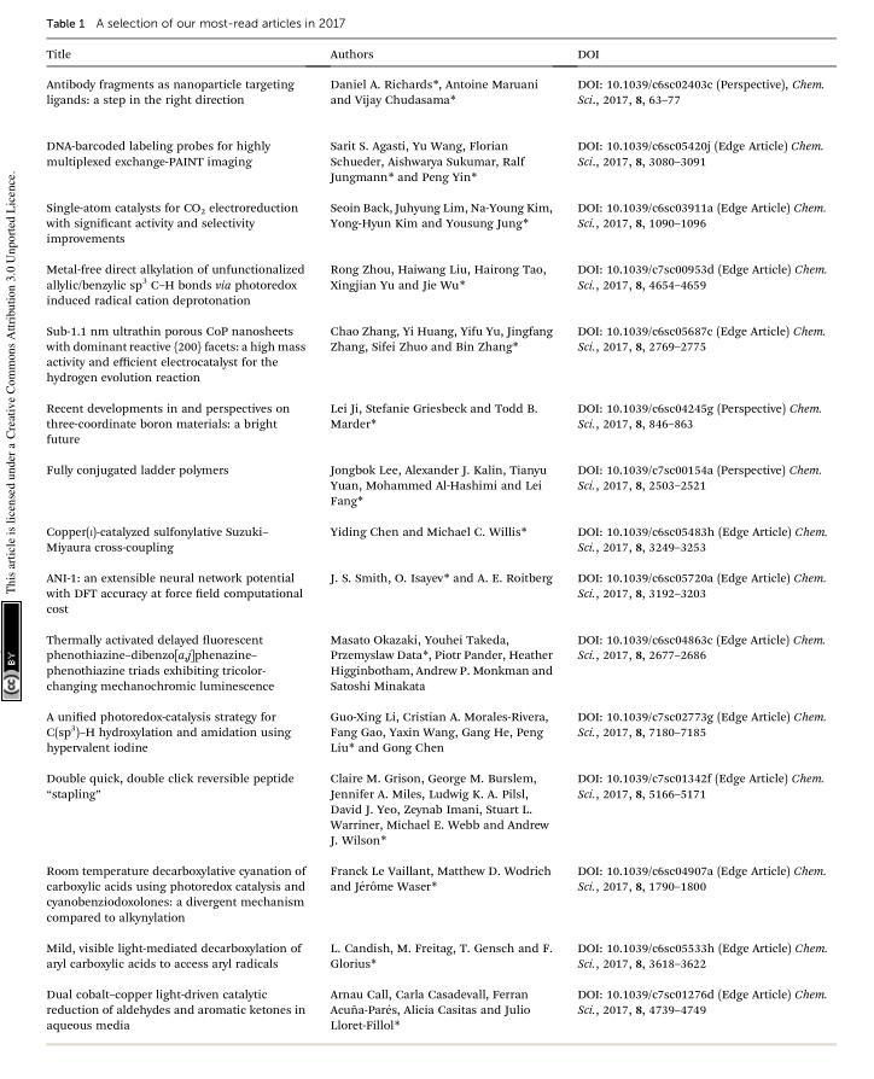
<table><thead><tr><td>Title</td><td>Authors</td><td>DOI</td></tr></thead><tbody><tr><td>Antibody fragments as nanoparticle targeting ligands: a step in the right direction</td><td>Daniel A. Richards*, Antoine Maruani and Vijay Chudasama*</td><td>DOI: 10.1039/c6sc02403c (Perspective), Chem. Sci., 2017, 8, 63–77</td></tr><tr><td>DNA-barcoded labeling probes for highly multiplexed exchange-PAINT imaging</td><td>Sarit S. Agasti, Yu Wang, Florian Schueder, Aishwarya Sukumar, Ralf Jungmann* and Peng Yin*</td><td>DOI: 10.1039/c6sc05420j (Edge Article) Chem. Sci., 2017, 8, 3080–3091</td></tr><tr><td>Single-atom catalysts for CO2 electroreduction with signicant activity and selectivity improvements</td><td>Seoin Back, Juhyung Lim, Na-Young Kim, Yong-Hyun Kim and Yousung Jung*</td><td>DOI: 10.1039/c6sc03911a (Edge Article) Chem. Sci., 2017, 8, 1090–1096</td></tr><tr><td>Metal-free direct alkylation of unfunctionalized allylic/benzylic sp<sup>3</sup> C–H bonds via photoredox induced radical cation deprotonation</td><td>Rong Zhou, Haiwang Liu, Hairong Tao, Xingjian Yu and Jie Wu*</td><td>DOI: 10.1039/c7sc00953d (Edge Article) Chem. Sci., 2017, 8, 4654–4659</td></tr><tr><td>Sub-1.1 nm ultrathin porous CoP nanosheets with dominant reactive {200} facets: a high mass activity and efficient electrocatalyst for the hydrogen evolution reaction</td><td>Chao Zhang, Yi Huang, Yifu Yu, Jingfang Zhang, Sifei Zhuo and Bin Zhang*</td><td>DOI: 10.1039/c6sc05687c (Edge Article) Chem. Sci., 2017, 8, 2769–2775</td></tr><tr><td>Recent developments in and perspectives on three-coordinate boron materials: a bright future</td><td>Lei Ji, Stefanie Griesbeck and Todd B. Marder*</td><td>DOI: 10.1039/c6sc04245g (Perspective) Chem. Sci., 2017, 8, 846–863</td></tr><tr><td>Fully conjugated ladder polymers</td><td>Jongbok Lee, Alexander J. Kalin, Tianyu Yuan, Mohammed Al-Hashimi and Lei Fang*</td><td>DOI: 10.1039/c7sc00154a (Perspective) Chem. Sci., 2017, 8, 2503–2521</td></tr><tr><td>Copper(I)-catalyzed sulfonylative Suzuki– Miyaura cross-coupling</td><td>Yiding Chen and Michael C. Willis*</td><td>DOI: 10.1039/c6sc05483h (Edge Article) Chem. Sci., 2017, 8, 3249–3253</td></tr><tr><td>ANI-1: an extensible neural network potential with DFT accuracy at force eld computational cost</td><td>J. S. Smith, O. Isayev* and A. E. Roitberg</td><td>DOI: 10.1039/c6sc05720a (Edge Article) Chem. Sci., 2017, 8, 3192–3203</td></tr><tr><td>Thermally activated delayed uorescent phenothiazine–dibenzo[a,j]phenazine– phenothiazine triads exhibiting tricolor- changing mechanochromic luminescence</td><td>Masato Okazaki, Youhei Takeda, Przemyslaw Data*, Piotr Pander, Heather Higginbotham, Andrew P. Monkman and Satoshi Minakata</td><td>DOI: 10.1039/c6sc04863c (Edge Article) Chem. Sci., 2017, 8, 2677–2686</td></tr><tr><td>A unied photoredox-catalysis strategy for C(sp3)–H hydroxylation and amidation using hypervalent iodine</td><td>Guo-Xing Li, Cristian A. Morales-Rivera, Fang Gao, Yaxin Wang, Gang He, Peng Liu* and Gong Chen</td><td>DOI: 10.1039/c7sc02773g (Edge Article) Chem. Sci., 2017, 8, 7180–7185</td></tr><tr><td>Double quick, double click reversible peptide “stapling”</td><td>Claire M. Grison, George M. Burslem, Jennifer A. Miles, Ludwig K. A. Pilsl, David J. Yeo, Zeynab Imani, Stuart L. Warriner, Michael E. Webb and Andrew J. Wilson*</td><td>DOI: 10.1039/c7sc01342f (Edge Article) Chem. Sci., 2017, 8, 5166–5171</td></tr><tr><td>Room temperature decarboxylative cyanation of carboxylic acids using photoredox catalysis and cyanobenziodoxolones: a divergent mechanism compared to alkynylation</td><td>Franck Le Vaillant, Matthew D. Wodrich and J´erˆome Waser*</td><td>DOI: 10.1039/c6sc04907a (Edge Article) Chem. Sci., 2017, 8, 1790–1800</td></tr><tr><td>Mild, visible light-mediated decarboxylation of aryl carboxylic acids to access aryl radicals</td><td>L. Candish, M. Freitag, T. Gensch and F. Glorius*</td><td>DOI: 10.1039/c6sc05533h (Edge Article) Chem. Sci., 2017, 8, 3618–3622</td></tr><tr><td>Dual cobalt–copper light-driven catalytic reduction of aldehydes and aromatic ketones in aqueous media</td><td>Arnau Call, Carla Casadevall, Ferran Acu˜na-Par´es, Alicia Casitas and Julio Lloret-Fillol*</td><td>DOI: 10.1039/c7sc01276d (Edge Article) Chem. Sci., 2017, 8, 4739–4749</td></tr></tbody></table>